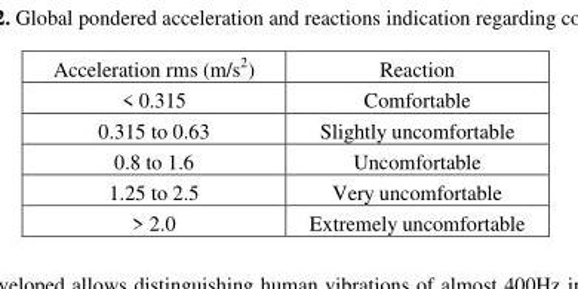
<table><thead><tr><td>Acceleration rms (m/s<sup>2</sup>)</td><td>Reaction</td></tr></thead><tbody><tr><td>&lt; 0.315</td><td>Comfortable</td></tr><tr><td>0.315 to 0.63</td><td>Slightly uncomfortable</td></tr><tr><td>0.8 to 1.6</td><td>Uncomfortable</td></tr><tr><td>1.25 to 2.5</td><td>Very uncomfortable</td></tr><tr><td>&gt; 2.0</td><td>Extremely uncomfortable</td></tr></tbody></table>